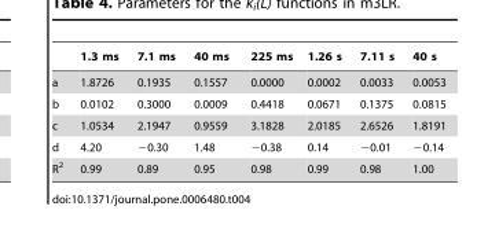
<table><thead><tr><td></td><td>1.3 ms</td><td>7.1 ms</td><td>40 ms</td><td>225 ms</td><td>1.26 s</td><td>7.11 s</td><td>40 s</td></tr></thead><tbody><tr><td>a</td><td>1.8726</td><td>0.1935</td><td>0.1557</td><td>0.0000</td><td>0.0002</td><td>0.0033</td><td>0.0053</td></tr><tr><td>b</td><td>0.0102</td><td>0.3000</td><td>0.0009</td><td>0.4418</td><td>0.0671</td><td>0.1375</td><td>0.0815</td></tr><tr><td>c</td><td>1.0534</td><td>2.1947</td><td>0.9559</td><td>3.1828</td><td>2.0185</td><td>2.6526</td><td>1.8191</td></tr><tr><td>d</td><td>4.20</td><td>−0.30</td><td>1.48</td><td>−0.38</td><td>0.14</td><td>−0.01</td><td>−0.14</td></tr><tr><td>R<sup>2</sup></td><td>0.99</td><td>0.89</td><td>0.95</td><td>0.98</td><td>0.99</td><td>0.98</td><td>1.00</td></tr></tbody></table>